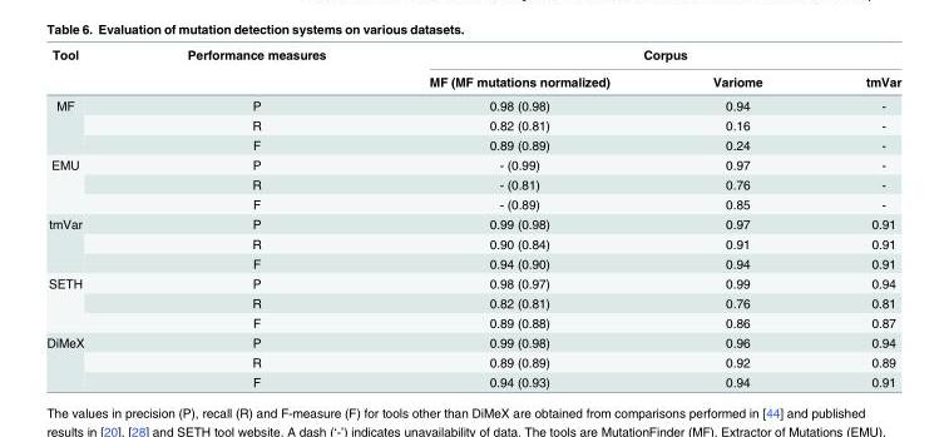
<table><thead><tr><td rowspan="2">Tool</td><td rowspan="2">Performance measures</td><td colspan="3">Corpus</td></tr><tr><td>MF (MF mutations normalized)</td><td>Variome</td><td>tmVar</td></tr></thead><tbody><tr><td rowspan="3">MF</td><td>P</td><td>0.98 (0.98)</td><td>0.94</td><td>-</td></tr><tr><td>R</td><td>0.82 (0.81)</td><td>0.16</td><td>-</td></tr><tr><td>F</td><td>0.89 (0.89)</td><td>0.24</td><td>-</td></tr><tr><td rowspan="3">EMU</td><td>P</td><td>- (0.99)</td><td>0.97</td><td>-</td></tr><tr><td>R</td><td>- (0.81)</td><td>0.76</td><td>-</td></tr><tr><td>F</td><td>- (0.89)</td><td>0.85</td><td>-</td></tr><tr><td rowspan="3">tmVar</td><td>P</td><td>0.99 (0.98)</td><td>0.97</td><td>0.91</td></tr><tr><td>R</td><td>0.90 (0.84)</td><td>0.91</td><td>0.91</td></tr><tr><td>F</td><td>0.94 (0.90)</td><td>0.94</td><td>0.91</td></tr><tr><td rowspan="3">SETH</td><td>P</td><td>0.98 (0.97)</td><td>0.99</td><td>0.94</td></tr><tr><td>R</td><td>0.82 (0.81)</td><td>0.76</td><td>0.81</td></tr><tr><td>F</td><td>0.89 (0.88)</td><td>0.86</td><td>0.87</td></tr><tr><td rowspan="3">DiMeX</td><td>P</td><td>0.99 (0.98)</td><td>0.96</td><td>0.94</td></tr><tr><td>R</td><td>0.89 (0.89)</td><td>0.92</td><td>0.89</td></tr><tr><td>F</td><td>0.94 (0.93)</td><td>0.94</td><td>0.91</td></tr></tbody></table>